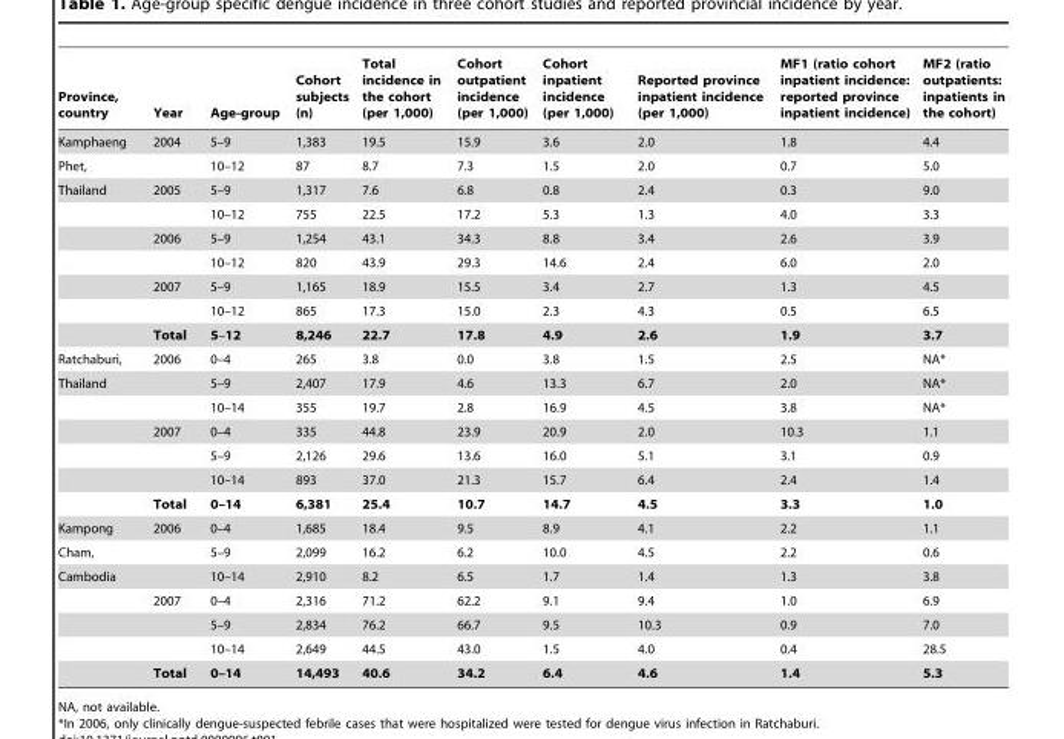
<table><thead><tr><td>Province, country</td><td>Year</td><td>Age-group</td><td>Cohort subjects (n)</td><td>Total incidence in the cohort (per 1,000)</td><td>Cohort outpatient incidence (per 1,000)</td><td>Cohort inpatient incidence (per 1,000)</td><td>Reported province inpatient incidence (per 1,000)</td><td>MF1 (ratio cohort inpatient incidence: reported province inpatient incidence)</td><td>MF2 (ratio outpatients: inpatients in the cohort)</td></tr></thead><tbody><tr><td>Kamphaeng</td><td>2004</td><td>5–9</td><td>1,383</td><td>19.5</td><td>15.9</td><td>3.6</td><td>2.0</td><td>1.8</td><td>4.4</td></tr><tr><td>Phet,</td><td></td><td>10–12</td><td>87</td><td>8.7</td><td>7.3</td><td>1.5</td><td>2.0</td><td>0.7</td><td>5.0</td></tr><tr><td rowspan="7">Thailand</td><td>2005</td><td>5–9</td><td>1,317</td><td>7.6</td><td>6.8</td><td>0.8</td><td>2.4</td><td>0.3</td><td>9.0</td></tr><tr><td></td><td>10–12</td><td>755</td><td>22.5</td><td>17.2</td><td>5.3</td><td>1.3</td><td>4.0</td><td>3.3</td></tr><tr><td>2006</td><td>5–9</td><td>1,254</td><td>43.1</td><td>34.3</td><td>8.8</td><td>3.4</td><td>2.6</td><td>3.9</td></tr><tr><td></td><td>10–12</td><td>820</td><td>43.9</td><td>29.3</td><td>14.6</td><td>2.4</td><td>6.0</td><td>2.0</td></tr><tr><td>2007</td><td>5–9</td><td>1,165</td><td>18.9</td><td>15.5</td><td>3.4</td><td>2.7</td><td>1.3</td><td>4.5</td></tr><tr><td></td><td>10–12</td><td>865</td><td>17.3</td><td>15.0</td><td>2.3</td><td>4.3</td><td>0.5</td><td>6.5</td></tr><tr><td>Total</td><td>5–12</td><td>8,246</td><td>22.7</td><td>17.8</td><td>4.9</td><td>2.6</td><td>1.9</td><td>3.7</td></tr><tr><td>Ratchaburi,</td><td>2006</td><td>0–4</td><td>265</td><td>3.8</td><td>0.0</td><td>3.8</td><td>1.5</td><td>2.5</td><td>NA*</td></tr><tr><td rowspan="6">Thailand</td><td></td><td>5–9</td><td>2,407</td><td>17.9</td><td>4.6</td><td>13.3</td><td>6.7</td><td>2.0</td><td>NA*</td></tr><tr><td></td><td>10–14</td><td>355</td><td>19.7</td><td>2.8</td><td>16.9</td><td>4.5</td><td>3.8</td><td>NA*</td></tr><tr><td>2007</td><td>0–4</td><td>335</td><td>44.8</td><td>23.9</td><td>20.9</td><td>2.0</td><td>10.3</td><td>1.1</td></tr><tr><td></td><td>5–9</td><td>2,126</td><td>29.6</td><td>13.6</td><td>16.0</td><td>5.1</td><td>3.1</td><td>0.9</td></tr><tr><td></td><td>10–14</td><td>893</td><td>37.0</td><td>21.3</td><td>15.7</td><td>6.4</td><td>2.4</td><td>1.4</td></tr><tr><td>Total</td><td>0–14</td><td>6,381</td><td>25.4</td><td>10.7</td><td>14.7</td><td>4.5</td><td>3.3</td><td>1.0</td></tr><tr><td>Kampong</td><td>2006</td><td>0–4</td><td>1,685</td><td>18.4</td><td>9.5</td><td>8.9</td><td>4.1</td><td>2.2</td><td>1.1</td></tr><tr><td>Cham,</td><td></td><td>5–9</td><td>2,099</td><td>16.2</td><td>6.2</td><td>10.0</td><td>4.5</td><td>2.2</td><td>0.6</td></tr><tr><td rowspan="5">Cambodia</td><td></td><td>10–14</td><td>2,910</td><td>8.2</td><td>6.5</td><td>1.7</td><td>1.4</td><td>1.3</td><td>3.8</td></tr><tr><td>2007</td><td>0–4</td><td>2,316</td><td>71.2</td><td>62.2</td><td>9.1</td><td>9.4</td><td>1.0</td><td>6.9</td></tr><tr><td></td><td>5–9</td><td>2,834</td><td>76.2</td><td>66.7</td><td>9.5</td><td>10.3</td><td>0.9</td><td>7.0</td></tr><tr><td></td><td>10–14</td><td>2,649</td><td>44.5</td><td>43.0</td><td>1.5</td><td>4.0</td><td>0.4</td><td>28.5</td></tr><tr><td>Total</td><td>0–14</td><td>14,493</td><td>40.6</td><td>34.2</td><td>6.4</td><td>4.6</td><td>1.4</td><td>5.3</td></tr></tbody></table>